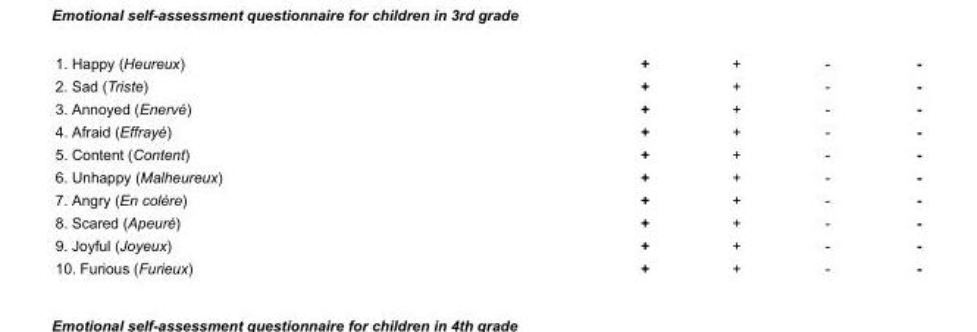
<table><tbody><tr><td>1. Happy (Heureux)</td><td>+</td><td>+</td><td>-</td><td>-</td></tr><tr><td>2. Sad (Triste)</td><td>+</td><td>+</td><td>-</td><td>-</td></tr><tr><td>3. Annoyed (Enervé)</td><td>+</td><td>+</td><td>-</td><td>-</td></tr><tr><td>4. Afraid (Effrayé)</td><td>+</td><td>+</td><td>-</td><td>-</td></tr><tr><td>5. Content (Content)</td><td>+</td><td>+</td><td>-</td><td>-</td></tr><tr><td>6. Unhappy (Malheureux)</td><td>+</td><td>+</td><td>-</td><td>-</td></tr><tr><td>7. Angry (En colère)</td><td>+</td><td>+</td><td>-</td><td>-</td></tr><tr><td>8. Scared (Apeuré)</td><td>+</td><td>+</td><td>-</td><td>-</td></tr><tr><td>9. Joyful (Joyeux)</td><td>+</td><td>+</td><td>-</td><td>-</td></tr><tr><td>10. Furious (Furieux)</td><td>+</td><td>+</td><td>-</td><td>-</td></tr></tbody></table>